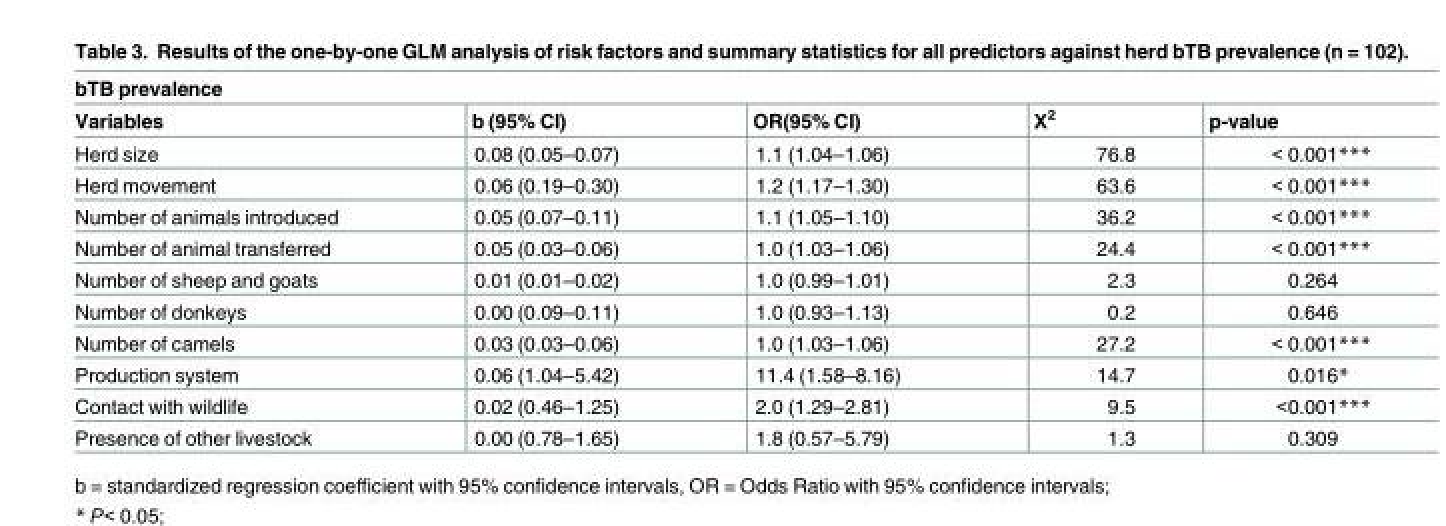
<table><thead><tr><td colspan="5">bTB prevalence</td></tr><tr><td>Variables</td><td>b (95% CI)</td><td>OR(95% CI)</td><td>Χ<sup>2</sup></td><td>p-value</td></tr></thead><tbody><tr><td>Herd size</td><td>0.08 (0.05–0.07)</td><td>1.1 (1.04–1.06)</td><td>76.8</td><td>&lt; 0.001***</td></tr><tr><td>Herd movement</td><td>0.06 (0.19–0.30)</td><td>1.2 (1.17–1.30)</td><td>63.6</td><td>&lt; 0.001***</td></tr><tr><td>Number of animals introduced</td><td>0.05 (0.07–0.11)</td><td>1.1 (1.05–1.10)</td><td>36.2</td><td>&lt; 0.001***</td></tr><tr><td>Number of animal transferred</td><td>0.05 (0.03–0.06)</td><td>1.0 (1.03–1.06)</td><td>24.4</td><td>&lt; 0.001***</td></tr><tr><td>Number of sheep and goats</td><td>0.01 (0.01–0.02)</td><td>1.0 (0.99–1.01)</td><td>2.3</td><td>0.264</td></tr><tr><td>Number of donkeys</td><td>0.00 (0.09–0.11)</td><td>1.0 (0.93–1.13)</td><td>0.2</td><td>0.646</td></tr><tr><td>Number of camels</td><td>0.03 (0.03–0.06)</td><td>1.0 (1.03–1.06)</td><td>27.2</td><td>&lt; 0.001***</td></tr><tr><td>Production system</td><td>0.06 (1.04–5.42)</td><td>11.4 (1.58–8.16)</td><td>14.7</td><td>0.016*</td></tr><tr><td>Contact with wildlife</td><td>0.02 (0.46–1.25)</td><td>2.0 (1.29–2.81)</td><td>9.5</td><td>&lt;0.001***</td></tr><tr><td>Presence of other livestock</td><td>0.00 (0.78–1.65)</td><td>1.8 (0.57–5.79)</td><td>1.3</td><td>0.309</td></tr></tbody></table>